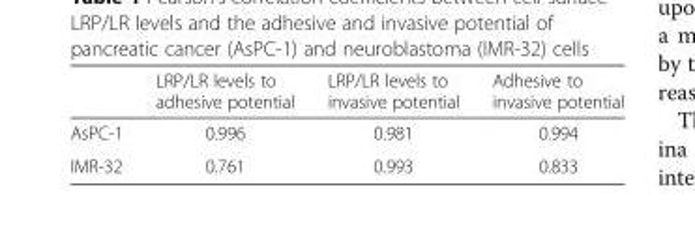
<table><thead><tr><td></td><td>LRP/LR levels to adhesive potential</td><td>LRP/LR levels to invasive potential</td><td>Adhesive to invasive potential</td></tr></thead><tbody><tr><td>AsPC-1</td><td>0.996</td><td>0.981</td><td>0.994</td></tr><tr><td>IMR-32</td><td>0.761</td><td>0.993</td><td>0.833</td></tr></tbody></table>